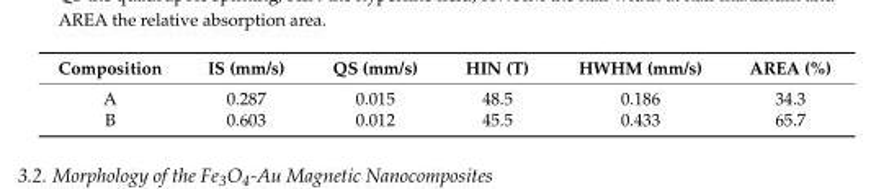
<table><thead><tr><td>Composition</td><td>IS (mm/s)</td><td>QS (mm/s)</td><td>HIN (T)</td><td>HWHM (mm/s)</td><td>AREA (%)</td></tr></thead><tbody><tr><td>A</td><td>0.287</td><td>0.015</td><td>48.5</td><td>0.186</td><td>34.3</td></tr><tr><td>B</td><td>0.603</td><td>0.012</td><td>45.5</td><td>0.433</td><td>65.7</td></tr></tbody></table>